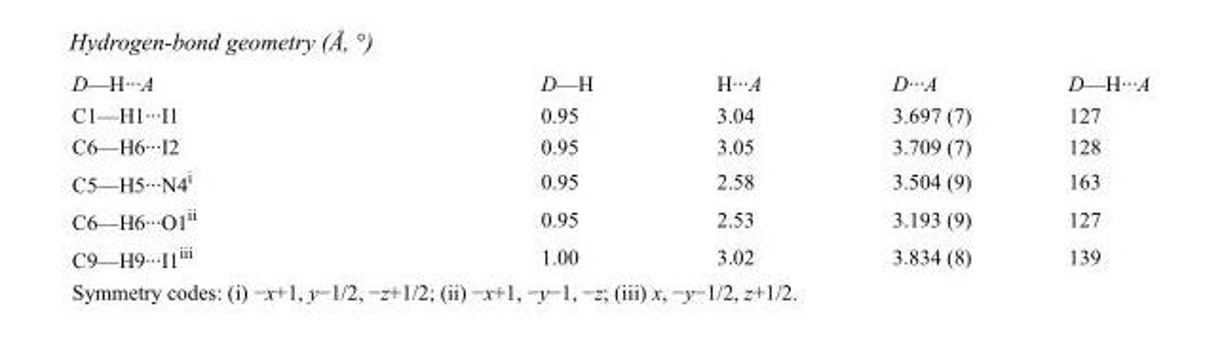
<table><tbody><tr><td>D—H···A</td><td>D—H</td><td>H···A</td><td>D···A</td><td>D—H···A</td></tr><tr><td>C1—H1···I1</td><td>0.95</td><td>3.04</td><td>3.697 (7)</td><td>127</td></tr><tr><td>C6—H6···I2</td><td>0.95</td><td>3.05</td><td>3.709 (7)</td><td>128</td></tr><tr><td>C5—H5···N4<sup>i</sup></td><td>0.95</td><td>2.58</td><td>3.504 (9)</td><td>163</td></tr><tr><td>C6—H6···O1<sup>ii</sup></td><td>0.95</td><td>2.53</td><td>3.193 (9)</td><td>127</td></tr><tr><td>C9—H9···I1<sup>iii</sup></td><td>1.00</td><td>3.02</td><td>3.834 (8)</td><td>139</td></tr></tbody></table>